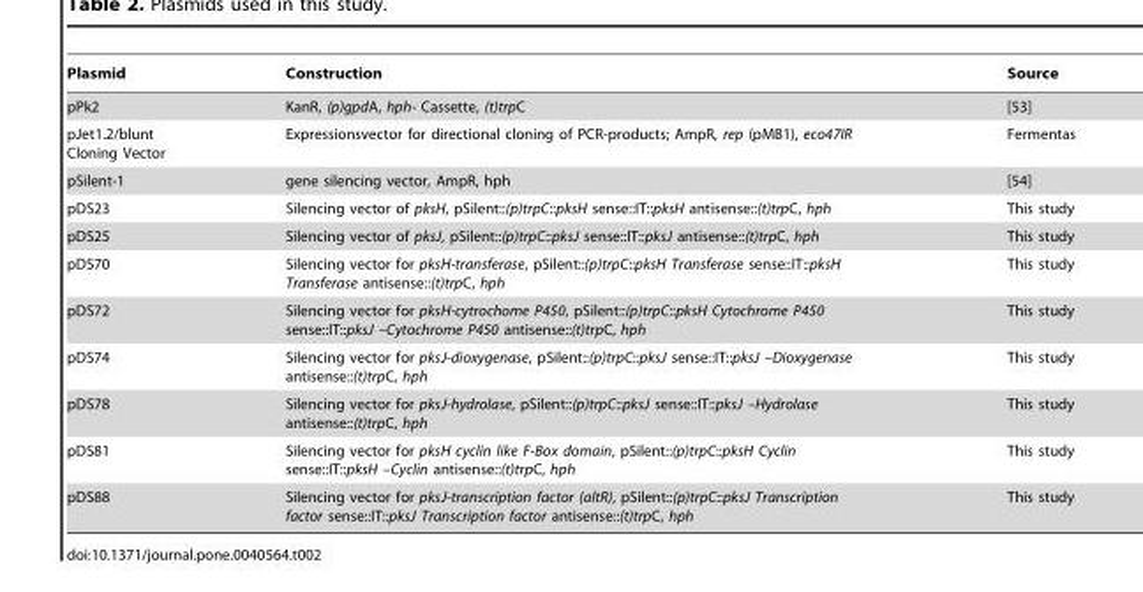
<table><thead><tr><td>Plasmid</td><td>Construction</td><td>Source</td></tr></thead><tbody><tr><td>pPk2</td><td>KanR, (p)gpdA, hph- Cassette, (t)trpC</td><td>[53]</td></tr><tr><td>pJet1.2/blunt Cloning Vector</td><td>Expressionsvector for directional cloning of PCR-products; AmpR, rep (pMB1), eco47IR</td><td>Fermentas</td></tr><tr><td>pSilent-1</td><td>gene silencing vector, AmpR, hph</td><td>[54]</td></tr><tr><td>pDS23</td><td>Silencing vector of pksH, pSilent::(p)trpC::pksH sense::IT::pksH antisense::(t)trpC, hph</td><td>This study</td></tr><tr><td>pDS25</td><td>Silencing vector of pksJ, pSilent::(p)trpC::pksJ sense::IT::pksJ antisense::(t)trpC, hph</td><td>This study</td></tr><tr><td>pDS70</td><td>Silencing vector for pksH-transferase, pSilent::(p)trpC::pksH Transferase sense::IT::pksH Transferase antisense::(t)trpC, hph</td><td>This study</td></tr><tr><td>pDS72</td><td>Silencing vector for pksH-cytrochome P450, pSilent::(p)trpC::pksH Cytochrome P450 sense::IT::pksJ –Cytochrome P450 antisense::(t)trpC, hph</td><td>This study</td></tr><tr><td>pDS74</td><td>Silencing vector for pksJ-dioxygenase, pSilent::(p)trpC::pksJ sense::IT::pksJ –Dioxygenase antisense::(t)trpC, hph</td><td>This study</td></tr><tr><td>pDS78</td><td>Silencing vector for pksJ-hydrolase, pSilent::(p)trpC::pksJ sense::IT::pksJ –Hydrolase antisense::(t)trpC, hph</td><td>This study</td></tr><tr><td>pDS81</td><td>Silencing vector for pksH cyclin like F-Box domain, pSilent::(p)trpC::pksH Cyclin sense::IT::pksH –Cyclin antisense::(t)trpC, hph</td><td>This study</td></tr><tr><td>pDS88</td><td>Silencing vector for pksJ-transcription factor (altR), pSilent::(p)trpC::pksJ Transcription factor sense::IT::pksJ Transcription factor antisense::(t)trpC, hph</td><td>This study</td></tr></tbody></table>